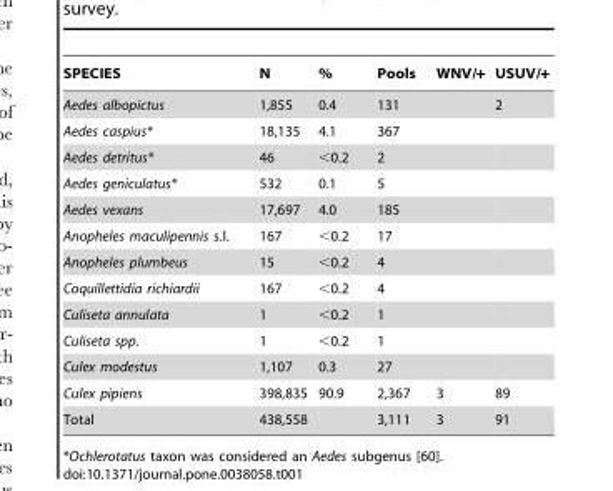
<table><thead><tr><td>SPECIES</td><td>N</td><td>%</td><td>Pools</td><td>WNV/+</td><td>USUV/+</td></tr></thead><tbody><tr><td>Aedes albopictus</td><td>1,855</td><td>0.4</td><td>131</td><td></td><td>2</td></tr><tr><td>Aedes caspius*</td><td>18,135</td><td>4.1</td><td>367</td><td></td><td></td></tr><tr><td>Aedes detritus*</td><td>46</td><td>&lt;0.2</td><td>2</td><td></td><td></td></tr><tr><td>Aedes geniculatus*</td><td>532</td><td>0.1</td><td>5</td><td></td><td></td></tr><tr><td>Aedes vexans</td><td>17,697</td><td>4.0</td><td>185</td><td></td><td></td></tr><tr><td>Anopheles maculipennis s.l.</td><td>167</td><td>&lt;0.2</td><td>17</td><td></td><td></td></tr><tr><td>Anopheles plumbeus</td><td>15</td><td>&lt;0.2</td><td>4</td><td></td><td></td></tr><tr><td>Coquillettidia richiardii</td><td>167</td><td>&lt;0.2</td><td>4</td><td></td><td></td></tr><tr><td>Culiseta annulata</td><td>1</td><td>&lt;0.2</td><td>1</td><td></td><td></td></tr><tr><td>Culiseta spp.</td><td>1</td><td>&lt;0.2</td><td>1</td><td></td><td></td></tr><tr><td>Culex modestus</td><td>1,107</td><td>0.3</td><td>27</td><td></td><td></td></tr><tr><td>Culex pipiens</td><td>398,835</td><td>90.9</td><td>2,367</td><td>3</td><td>89</td></tr><tr><td>Total</td><td>438,558</td><td></td><td>3,111</td><td>3</td><td>91</td></tr></tbody></table>